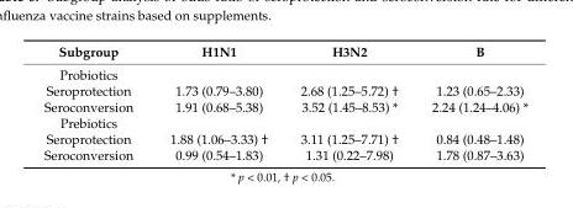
<table><thead><tr><td>Subgroup</td><td>H1N1</td><td>H3N2</td><td>B</td></tr></thead><tbody><tr><td colspan="4">Probiotics</td></tr><tr><td>Seroprotection</td><td>1.73 (0.79–3.80)</td><td>2.68 (1.25–5.72) †</td><td>1.23 (0.65–2.33)</td></tr><tr><td>Seroconversion</td><td>1.91 (0.68–5.38)</td><td>3.52 (1.45–8.53) *</td><td>2.24 (1.24–4.06) *</td></tr><tr><td colspan="4">Prebiotics</td></tr><tr><td>Seroprotection</td><td>1.88 (1.06–3.33) †</td><td>3.11 (1.25–7.71) †</td><td>0.84 (0.48–1.48)</td></tr><tr><td>Seroconversion</td><td>0.99 (0.54–1.83)</td><td>1.31 (0.22–7.98)</td><td>1.78 (0.87–3.63)</td></tr></tbody></table>